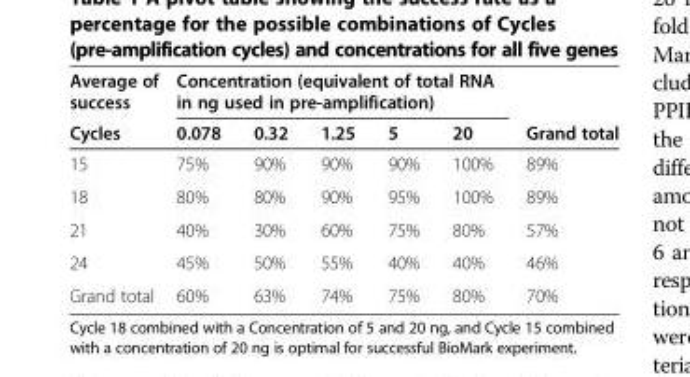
<table><thead><tr><td rowspan="2">Average of success Cycles</td><td colspan="5">Concentration (equivalent of total RNA in ng used in pre-amplification)</td><td rowspan="2">Grand total</td></tr><tr><td>0.078</td><td>0.32</td><td>1.25</td><td>5</td><td>20</td></tr></thead><tbody><tr><td>15</td><td>75%</td><td>90%</td><td>90%</td><td>90%</td><td>100%</td><td>89%</td></tr><tr><td>18</td><td>80%</td><td>80%</td><td>90%</td><td>95%</td><td>100%</td><td>89%</td></tr><tr><td>21</td><td>40%</td><td>30%</td><td>60%</td><td>75%</td><td>80%</td><td>57%</td></tr><tr><td>24</td><td>45%</td><td>50%</td><td>55%</td><td>40%</td><td>40%</td><td>46%</td></tr><tr><td>Grand total</td><td>60%</td><td>63%</td><td>74%</td><td>75%</td><td>80%</td><td>70%</td></tr></tbody></table>